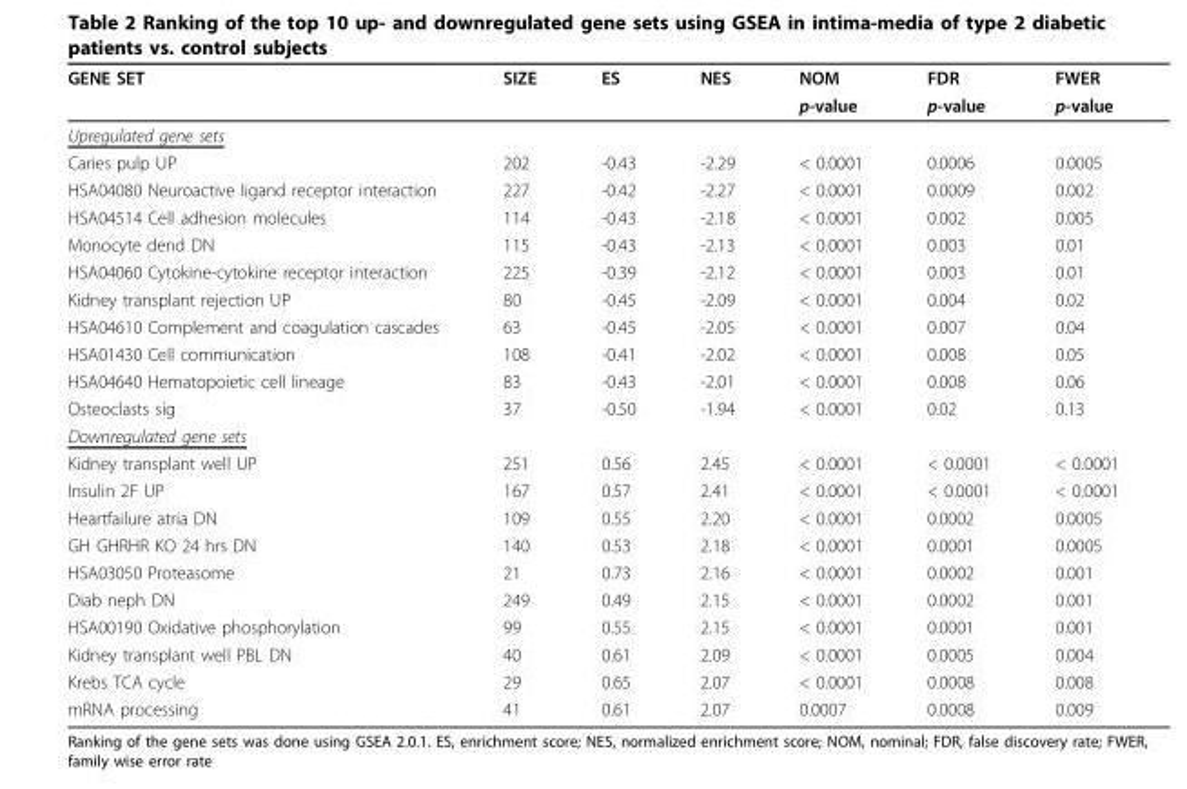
<table><thead><tr><td rowspan="2">GENE SET</td><td rowspan="2">SIZE</td><td rowspan="2">ES</td><td rowspan="2">NES</td><td rowspan="2">NOM p-value</td><td rowspan="2">FDR p-value</td><td rowspan="2">FWER p-value</td></tr><tr></tr></thead><tbody><tr><td colspan="7">Upregulated gene sets</td></tr><tr><td>Caries pulp UP</td><td>202</td><td>-0.43</td><td>-2.29</td><td>&lt; 0.0001</td><td>0.0006</td><td>0.0005</td></tr><tr><td>HSA04080 Neuroactive ligand receptor interaction</td><td>227</td><td>-0.42</td><td>-2.27</td><td>&lt; 0.0001</td><td>0.0009</td><td>0.002</td></tr><tr><td>HSA04514 Cell adhesion molecules</td><td>114</td><td>-0.43</td><td>-2.18</td><td>&lt; 0.0001</td><td>0.002</td><td>0.005</td></tr><tr><td>Monocyte dend DN</td><td>115</td><td>-0.43</td><td>-2.13</td><td>&lt; 0.0001</td><td>0.003</td><td>0.01</td></tr><tr><td>HSA04060 Cytokine-cytokine receptor interaction</td><td>225</td><td>-0.39</td><td>-2.12</td><td>&lt; 0.0001</td><td>0.003</td><td>0.01</td></tr><tr><td>Kidney transplant rejection UP</td><td>80</td><td>-0.45</td><td>-2.09</td><td>&lt; 0.0001</td><td>0.004</td><td>0.02</td></tr><tr><td>HSA04610 Complement and coagulation cascades</td><td>63</td><td>-0.45</td><td>-2.05</td><td>&lt; 0.0001</td><td>0.007</td><td>0.04</td></tr><tr><td>HSA01430 Cell communication</td><td>108</td><td>-0.41</td><td>-2.02</td><td>&lt; 0.0001</td><td>0.008</td><td>0.05</td></tr><tr><td>HSA04640 Hematopoietic cell lineage</td><td>83</td><td>-0.43</td><td>-2.01</td><td>&lt; 0.0001</td><td>0.008</td><td>0.06</td></tr><tr><td>Osteoclasts sig</td><td>37</td><td>-0.50</td><td>-1.94</td><td>&lt; 0.0001</td><td>0.02</td><td>0.13</td></tr><tr><td colspan="7">Downregulated gene sets</td></tr><tr><td>Kidney transplant well UP</td><td>251</td><td>0.56</td><td>2.45</td><td>&lt; 0.0001</td><td>&lt; 0.0001</td><td>&lt; 0.0001</td></tr><tr><td>Insulin 2F UP</td><td>167</td><td>0.57</td><td>2.41</td><td>&lt; 0.0001</td><td>&lt; 0.0001</td><td>&lt; 0.0001</td></tr><tr><td>Heartfailure atria DN</td><td>109</td><td>0.55</td><td>2.20</td><td>&lt; 0.0001</td><td>0.0002</td><td>0.0005</td></tr><tr><td>GH GHRHR KO 24 hrs DN</td><td>140</td><td>0.53</td><td>2.18</td><td>&lt; 0.0001</td><td>0.0001</td><td>0.0005</td></tr><tr><td>HSA03050 Proteasome</td><td>21</td><td>0.73</td><td>2.16</td><td>&lt; 0.0001</td><td>0.0002</td><td>0.001</td></tr><tr><td>Diab neph DN</td><td>249</td><td>0.49</td><td>2.15</td><td>&lt; 0.0001</td><td>0.0002</td><td>0.001</td></tr><tr><td>HSA00190 Oxidative phosphorylation</td><td>99</td><td>0.55</td><td>2.15</td><td>&lt; 0.0001</td><td>0.0001</td><td>0.001</td></tr><tr><td>Kidney transplant well PBL DN</td><td>40</td><td>0.61</td><td>2.09</td><td>&lt; 0.0001</td><td>0.0005</td><td>0.004</td></tr><tr><td>Krebs TCA cycle</td><td>29</td><td>0.65</td><td>2.07</td><td>&lt; 0.0001</td><td>0.0008</td><td>0.008</td></tr><tr><td>mRNA processing</td><td>41</td><td>0.61</td><td>2.07</td><td>0.0007</td><td>0.0008</td><td>0.009</td></tr></tbody></table>